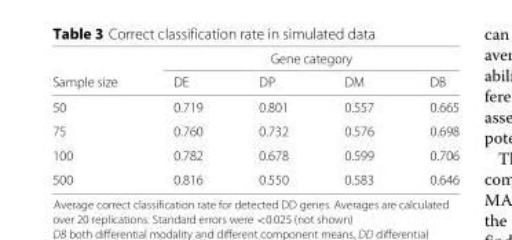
<table><thead><tr><td rowspan="2">Sample size</td><td colspan="4">Gene category</td></tr><tr><td>DE</td><td>DP</td><td>DM</td><td>DB</td></tr></thead><tbody><tr><td>50</td><td>0.719</td><td>0.801</td><td>0.557</td><td>0.665</td></tr><tr><td>75</td><td>0.760</td><td>0.732</td><td>0.576</td><td>0.698</td></tr><tr><td>100</td><td>0.782</td><td>0.678</td><td>0.599</td><td>0.706</td></tr><tr><td>500</td><td>0.816</td><td>0.550</td><td>0.583</td><td>0.646</td></tr></tbody></table>